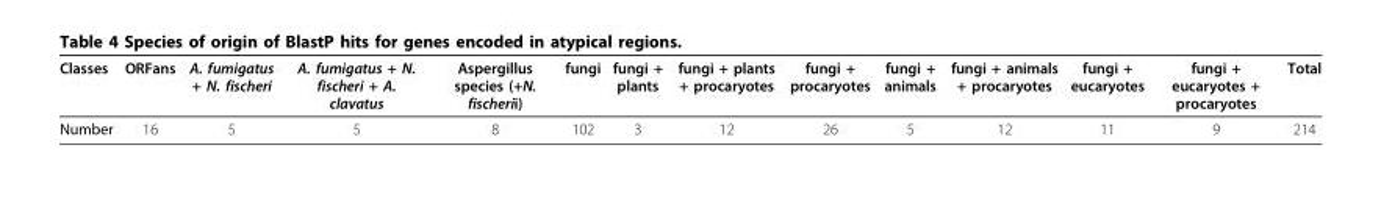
<table><thead><tr><td>Classes</td><td>ORFans</td><td>A. fumigatus + N. fischeri</td><td>A. fumigatus + N. fischeri + A. clavatus</td><td>Aspergillus species (+N. fischerii)</td><td>fungi</td><td>fungi + plants</td><td>fungi + plants + procaryotes</td><td>fungi + procaryotes</td><td>fungi + animals</td><td>fungi + animals + procaryotes</td><td>fungi + eucaryotes</td><td>fungi + eucaryotes + procaryotes</td><td>Total</td></tr></thead><tbody><tr><td>Number</td><td>16</td><td>5</td><td>5</td><td>8</td><td>102</td><td>3</td><td>12</td><td>26</td><td>5</td><td>12</td><td>11</td><td>9</td><td>214</td></tr></tbody></table>